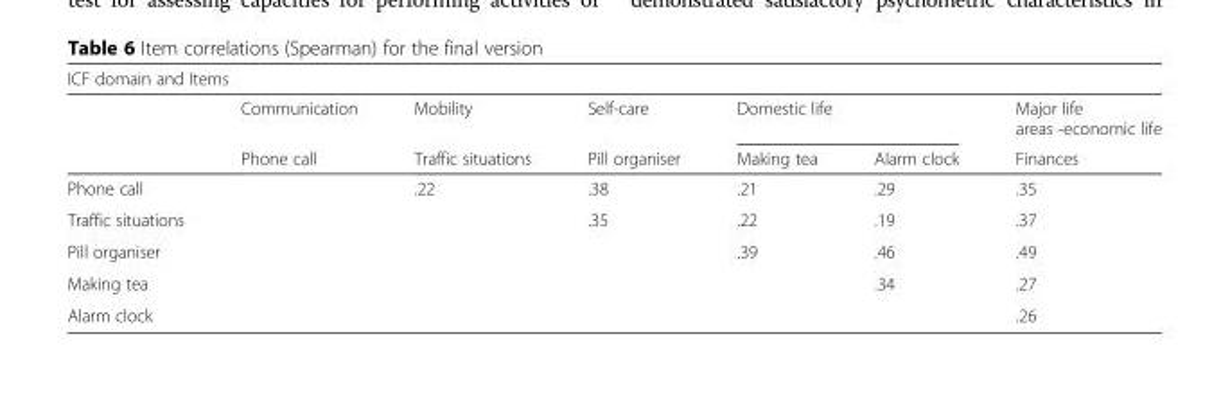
<table><thead><tr><td colspan="7">ICF domain and Items</td></tr><tr><td rowspan="2"></td><td rowspan="2">Communication Phone call</td><td rowspan="2">Mobility Traffic situations</td><td rowspan="2">Self-care Pill organiser</td><td colspan="2">Domestic life</td><td rowspan="2">Major life areas -economic life Finances</td></tr><tr><td>Making tea</td><td>Alarm clock</td></tr></thead><tbody><tr><td>Phone call</td><td></td><td>.22</td><td>.38</td><td>.21</td><td>.29</td><td>.35</td></tr><tr><td>Traffic situations</td><td></td><td></td><td>.35</td><td>.22</td><td>.19</td><td>.37</td></tr><tr><td>Pill organiser</td><td></td><td></td><td></td><td>.39</td><td>.46</td><td>.49</td></tr><tr><td>Making tea</td><td></td><td></td><td></td><td></td><td>.34</td><td>.27</td></tr><tr><td>Alarm clock</td><td></td><td></td><td></td><td></td><td></td><td>.26</td></tr></tbody></table>